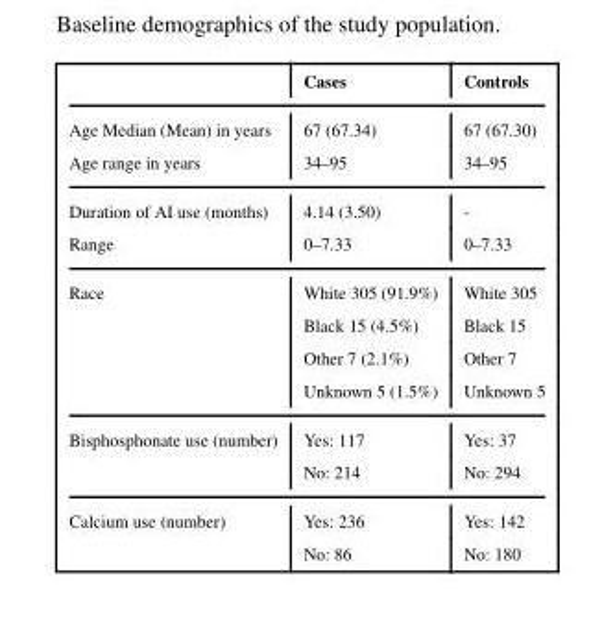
<table><thead><tr><td></td><td>Cases</td><td>Controls</td></tr></thead><tbody><tr><td>Age Median (Mean) in years</td><td>67 (67.34)</td><td>67 (67.30)</td></tr><tr><td>Age range in years</td><td>34–95</td><td>34–95</td></tr><tr><td>Duration of AI use (months)</td><td>4.14 (3.50)</td><td>-</td></tr><tr><td>Range</td><td>0–7.33</td><td>0–7.33</td></tr><tr><td rowspan="4">Race</td><td>White 305 (91.9%)</td><td>White 305</td></tr><tr><td>Black 15 (4.5%)</td><td>Black 15</td></tr><tr><td>Other 7 (2.1%)</td><td>Other 7</td></tr><tr><td>Unknown 5 (1.5%)</td><td>Unknown 5</td></tr><tr><td rowspan="2">Bisphosphonate use (number)</td><td>Yes: 117</td><td>Yes: 37</td></tr><tr><td>No: 214</td><td>No: 294</td></tr><tr><td rowspan="2">Calcium use (number)</td><td>Yes: 236</td><td>Yes: 142</td></tr><tr><td>No: 86</td><td>No: 180</td></tr></tbody></table>